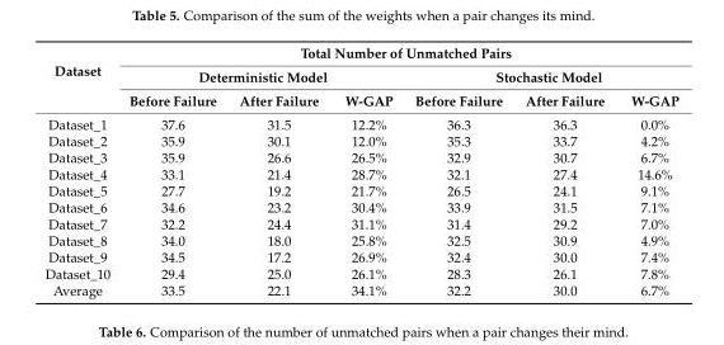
<table><thead><tr><td rowspan="3">Dataset</td><td colspan="6">Total Number of Unmatched Pairs</td></tr><tr><td colspan="3">Deterministic Model</td><td colspan="3">Stochastic Model</td></tr><tr><td>Before Failure</td><td>After Failure</td><td>W-GAP</td><td>Before Failure</td><td>After Failure</td><td>W-GAP</td></tr></thead><tbody><tr><td>Dataset_1</td><td>37.6</td><td>31.5</td><td>12.2%</td><td>36.3</td><td>36.3</td><td>0.0%</td></tr><tr><td>Dataset_2</td><td>35.9</td><td>30.1</td><td>12.0%</td><td>35.3</td><td>33.7</td><td>4.2%</td></tr><tr><td>Dataset_3</td><td>35.9</td><td>26.6</td><td>26.5%</td><td>32.9</td><td>30.7</td><td>6.7%</td></tr><tr><td>Dataset_4</td><td>33.1</td><td>21.4</td><td>28.7%</td><td>32.1</td><td>27.4</td><td>14.6%</td></tr><tr><td>Dataset_5</td><td>27.7</td><td>19.2</td><td>21.7%</td><td>26.5</td><td>24.1</td><td>9.1%</td></tr><tr><td>Dataset_6</td><td>34.6</td><td>23.2</td><td>30.4%</td><td>33.9</td><td>31.5</td><td>7.1%</td></tr><tr><td>Dataset_7</td><td>32.2</td><td>24.4</td><td>31.1%</td><td>31.4</td><td>29.2</td><td>7.0%</td></tr><tr><td>Dataset_8</td><td>34.0</td><td>18.0</td><td>25.8%</td><td>32.5</td><td>30.9</td><td>4.9%</td></tr><tr><td>Dataset_9</td><td>34.5</td><td>17.2</td><td>26.9%</td><td>32.4</td><td>30.0</td><td>7.4%</td></tr><tr><td>Dataset_10</td><td>29.4</td><td>25.0</td><td>26.1%</td><td>28.3</td><td>26.1</td><td>7.8%</td></tr><tr><td>Average</td><td>33.5</td><td>22.1</td><td>34.1%</td><td>32.2</td><td>30.0</td><td>6.7%</td></tr></tbody></table>